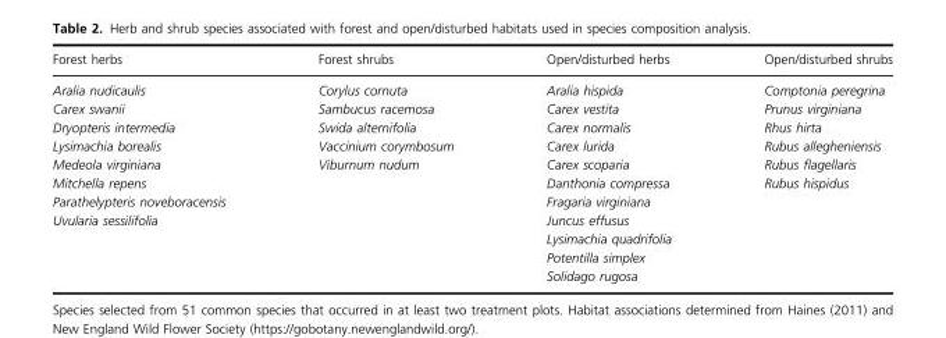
<table><thead><tr><td>Forest herbs</td><td>Forest shrubs</td><td>Open/disturbed herbs</td><td>Open/disturbed shrubs</td></tr></thead><tbody><tr><td>Aralia nudicaulis</td><td>Corylus cornuta</td><td>Aralia hispida</td><td>Comptonia peregrina</td></tr><tr><td>Carex swanii</td><td>Sambucus racemosa</td><td>Carex vestita</td><td>Prunus virginiana</td></tr><tr><td>Dryopteris intermedia</td><td>Swida alternifolia</td><td>Carex normalis</td><td>Rhus hirta</td></tr><tr><td>Lysimachia borealis</td><td>Vaccinium corymbosum</td><td>Carex lurida</td><td>Rubus allegheniensis</td></tr><tr><td>Medeola virginiana</td><td>Viburnum nudum</td><td>Carex scoparia</td><td>Rubus flagellaris</td></tr><tr><td>Mitchella repens</td><td rowspan="6"></td><td>Danthonia compressa</td><td>Rubus hispidus</td></tr><tr><td>Parathelypteris noveboracensis</td><td>Fragaria virginiana</td><td rowspan="5"></td></tr><tr><td rowspan="4">Uvularia sessilifolia</td><td>Juncus effusus</td></tr><tr><td>Lysimachia quadrifolia</td></tr><tr><td>Potentilla simplex</td></tr><tr><td>Solidago rugosa</td></tr></tbody></table>